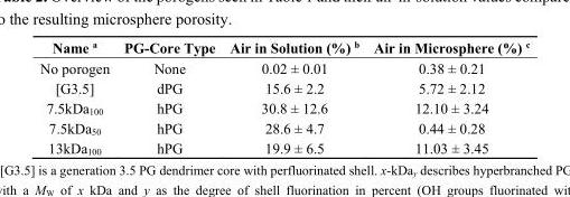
<table><thead><tr><td>Name <sup>a</sup></td><td>PG-Core Type</td><td>Air in Solution (%) <sup>b</sup></td><td>Air in Microsphere (%) <sup>c</sup></td></tr></thead><tbody><tr><td>No porogen</td><td>None</td><td>0.02 ± 0.01</td><td>0.38 ± 0.21</td></tr><tr><td>[G3.5]</td><td>dPG</td><td>15.6 ± 2.2</td><td>5.72 ± 2.12</td></tr><tr><td>7.5kDa<sub>100</sub></td><td>hPG</td><td>30.8 ± 12.6</td><td>12.10 ± 3.24</td></tr><tr><td>7.5kDa<sub>50</sub></td><td>hPG</td><td>28.6 ± 4.7</td><td>0.44 ± 0.28</td></tr><tr><td>13kDa<sub>100</sub></td><td>hPG</td><td>19.9 ± 6.5</td><td>11.03 ± 3.45</td></tr></tbody></table>